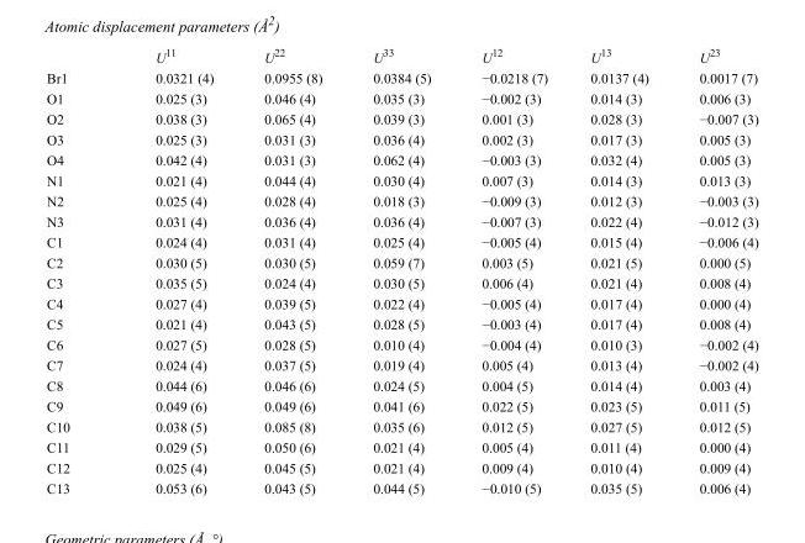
<table><thead><tr><td></td><td>U<sup>11</sup></td><td>U<sup>22</sup></td><td>U<sup>33</sup></td><td>U<sup>12</sup></td><td>U<sup>13</sup></td><td>U<sup>23</sup></td></tr></thead><tbody><tr><td>Br1</td><td>0.0321 (4)</td><td>0.0955 (8)</td><td>0.0384 (5)</td><td>−0.0218 (7)</td><td>0.0137 (4)</td><td>0.0017 (7)</td></tr><tr><td>O1</td><td>0.025 (3)</td><td>0.046 (4)</td><td>0.035 (3)</td><td>−0.002 (3)</td><td>0.014 (3)</td><td>0.006 (3)</td></tr><tr><td>O2</td><td>0.038 (3)</td><td>0.065 (4)</td><td>0.039 (3)</td><td>0.001 (3)</td><td>0.028 (3)</td><td>−0.007 (3)</td></tr><tr><td>O3</td><td>0.025 (3)</td><td>0.031 (3)</td><td>0.036 (4)</td><td>0.002 (3)</td><td>0.017 (3)</td><td>0.005 (3)</td></tr><tr><td>O4</td><td>0.042 (4)</td><td>0.031 (3)</td><td>0.062 (4)</td><td>−0.003 (3)</td><td>0.032 (4)</td><td>0.005 (3)</td></tr><tr><td>N1</td><td>0.021 (4)</td><td>0.044 (4)</td><td>0.030 (4)</td><td>0.007 (3)</td><td>0.014 (3)</td><td>0.013 (3)</td></tr><tr><td>N2</td><td>0.025 (4)</td><td>0.028 (4)</td><td>0.018 (3)</td><td>−0.009 (3)</td><td>0.012 (3)</td><td>−0.003 (3)</td></tr><tr><td>N3</td><td>0.031 (4)</td><td>0.036 (4)</td><td>0.036 (4)</td><td>−0.007 (3)</td><td>0.022 (4)</td><td>−0.012 (3)</td></tr><tr><td>C1</td><td>0.024 (4)</td><td>0.031 (4)</td><td>0.025 (4)</td><td>−0.005 (4)</td><td>0.015 (4)</td><td>−0.006 (4)</td></tr><tr><td>C2</td><td>0.030 (5)</td><td>0.030 (5)</td><td>0.059 (7)</td><td>0.003 (5)</td><td>0.021 (5)</td><td>0.000 (5)</td></tr><tr><td>C3</td><td>0.035 (5)</td><td>0.024 (4)</td><td>0.030 (5)</td><td>0.006 (4)</td><td>0.021 (4)</td><td>0.008 (4)</td></tr><tr><td>C4</td><td>0.027 (4)</td><td>0.039 (5)</td><td>0.022 (4)</td><td>−0.005 (4)</td><td>0.017 (4)</td><td>0.000 (4)</td></tr><tr><td>C5</td><td>0.021 (4)</td><td>0.043 (5)</td><td>0.028 (5)</td><td>−0.003 (4)</td><td>0.017 (4)</td><td>0.008 (4)</td></tr><tr><td>C6</td><td>0.027 (5)</td><td>0.028 (5)</td><td>0.010 (4)</td><td>−0.004 (4)</td><td>0.010 (3)</td><td>−0.002 (4)</td></tr><tr><td>C7</td><td>0.024 (4)</td><td>0.037 (5)</td><td>0.019 (4)</td><td>0.005 (4)</td><td>0.013 (4)</td><td>−0.002 (4)</td></tr><tr><td>C8</td><td>0.044 (6)</td><td>0.046 (6)</td><td>0.024 (5)</td><td>0.004 (5)</td><td>0.014 (4)</td><td>0.003 (4)</td></tr><tr><td>C9</td><td>0.049 (6)</td><td>0.049 (6)</td><td>0.041 (6)</td><td>0.022 (5)</td><td>0.023 (5)</td><td>0.011 (5)</td></tr><tr><td>C10</td><td>0.038 (5)</td><td>0.085 (8)</td><td>0.035 (6)</td><td>0.012 (5)</td><td>0.027 (5)</td><td>0.012 (5)</td></tr><tr><td>C11</td><td>0.029 (5)</td><td>0.050 (6)</td><td>0.021 (4)</td><td>0.005 (4)</td><td>0.011 (4)</td><td>0.000 (4)</td></tr><tr><td>C12</td><td>0.025 (4)</td><td>0.045 (5)</td><td>0.021 (4)</td><td>0.009 (4)</td><td>0.010 (4)</td><td>0.009 (4)</td></tr><tr><td>C13</td><td>0.053 (6)</td><td>0.043 (5)</td><td>0.044 (5)</td><td>−0.010 (5)</td><td>0.035 (5)</td><td>0.006 (4)</td></tr></tbody></table>